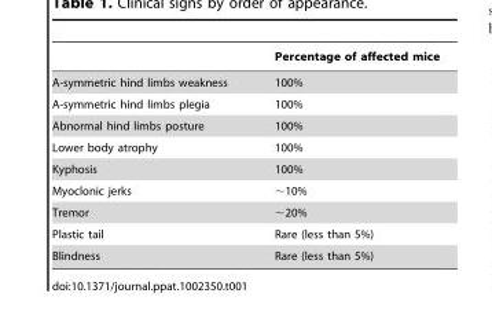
<table><thead><tr><td></td><td>Percentage of affected mice</td></tr></thead><tbody><tr><td>A-symmetric hind limbs weakness</td><td>100%</td></tr><tr><td>A-symmetric hind limbs plegia</td><td>100%</td></tr><tr><td>Abnormal hind limbs posture</td><td>100%</td></tr><tr><td>Lower body atrophy</td><td>100%</td></tr><tr><td>Kyphosis</td><td>100%</td></tr><tr><td>Myoclonic jerks</td><td>∼10%</td></tr><tr><td>Tremor</td><td>∼20%</td></tr><tr><td>Plastic tail</td><td>Rare (less than 5%)</td></tr><tr><td>Blindness</td><td>Rare (less than 5%)</td></tr></tbody></table>